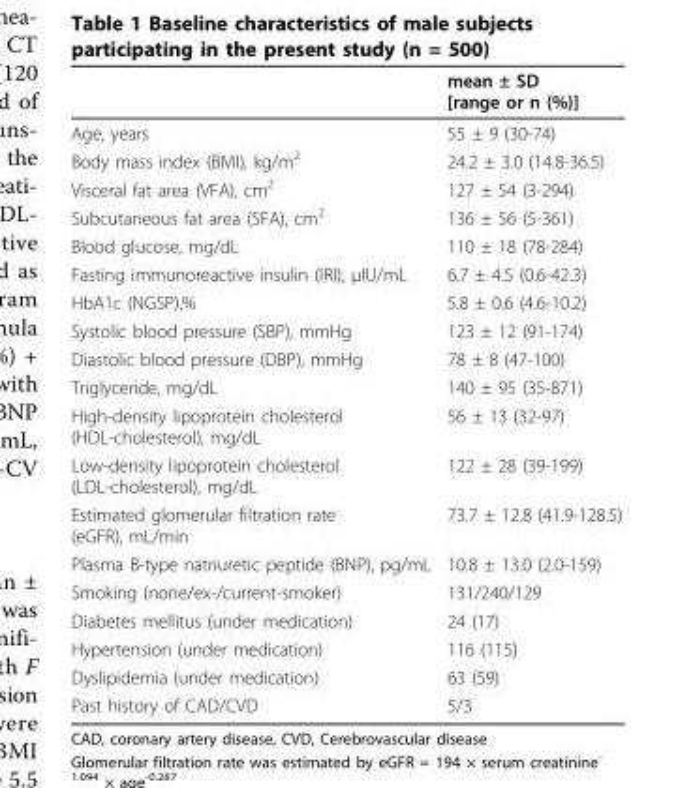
<table><thead><tr><td></td><td>mean ± SD [range or n (%)]</td></tr></thead><tbody><tr><td>Age, years</td><td>55 ± 9 (30-74)</td></tr><tr><td>Body mass index (BMI), kg/m<sup>2</sup></td><td>24.2 ± 3.0 (14.8-36.5)</td></tr><tr><td>Visceral fat area (VFA), cm<sup>2</sup></td><td>127 ± 54 (3-294)</td></tr><tr><td>Subcutaneous fat area (SFA), cm<sup>2</sup></td><td>136 ± 56 (5-361)</td></tr><tr><td>Blood glucose, mg/dL</td><td>110 ± 18 (78-284)</td></tr><tr><td>Fasting immunoreactive insulin (IRI), μIU/mL</td><td>6.7 ± 4.5 (0.6-42.3)</td></tr><tr><td>HbA1c (NGSP),%</td><td>5.8 ± 0.6 (4.6-10.2)</td></tr><tr><td>Systolic blood pressure (SBP), mmHg</td><td>123 ± 12 (91-174)</td></tr><tr><td>Diastolic blood pressure (DBP), mmHg</td><td>78 ± 8 (47-100)</td></tr><tr><td>Triglyceride, mg/dL</td><td>140 ± 95 (35-871)</td></tr><tr><td>High-density lipoprotein cholesterol (HDL-cholesterol), mg/dL</td><td>56 ± 13 (32-97)</td></tr><tr><td>Low-density lipoprotein cholesterol (LDL-cholesterol), mg/dL</td><td>122 ± 28 (39-199)</td></tr><tr><td>Estimated glomerular filtration rate (eGFR), mL/min</td><td>73.7 ± 12.8 (41.9-128.5)</td></tr><tr><td>Plasma B-type natriuretic peptide (BNP), pg/mL</td><td>10.8 ± 13.0 (2.0-159)</td></tr><tr><td>Smoking (none/ex-/current-smoker)</td><td>131/240/129</td></tr><tr><td>Diabetes mellitus (under medication)</td><td>24 (17)</td></tr><tr><td>Hypertension (under medication)</td><td>116 (115)</td></tr><tr><td>Dyslipidemia (under medication)</td><td>63 (59)</td></tr><tr><td>Past history of CAD/CVD</td><td>5/3</td></tr></tbody></table>